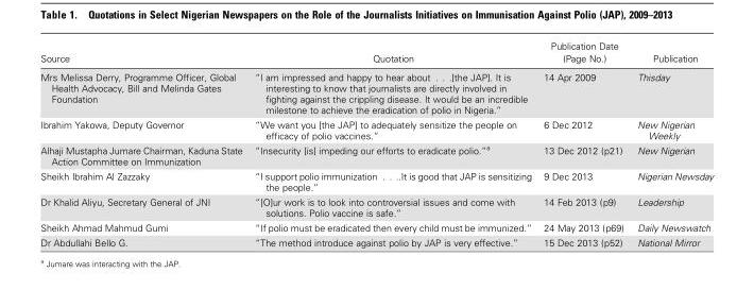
<table><thead><tr><td>Source</td><td>Quotation</td><td>Publication Date (Page No.)</td><td>Publication</td></tr></thead><tbody><tr><td>Mrs Melissa Derry, Programme Officer, Global Health Advocacy, Bill and Melinda Gates Foundation</td><td>“I am impressed and happy to hear about . . .[the JAP]. It is interesting to know that journalists are directly involved in fighting against the crippling disease. It would be an incredible milestone to achieve the eradication of polio in Nigeria.”</td><td>14 Apr 2009</td><td>Thisday</td></tr><tr><td>Ibrahim Yakowa, Deputy Governor</td><td>“We want you [the JAP] to adequately sensitize the people on efficacy of polio vaccines.”</td><td>6 Dec 2012</td><td>New Nigerian Weekly</td></tr><tr><td>Alhaji Mustapha Jumare Chairman, Kaduna State Action Committee on Immunization</td><td>“Insecurity [is] impeding our efforts to eradicate polio.”<sup>a</sup></td><td>13 Dec 2012 (p21)</td><td>New Nigerian</td></tr><tr><td>Sheikh Ibrahim Al Zazzaky</td><td>“I support polio immunization . . ..It is good that JAP is sensitizing the people.”</td><td>9 Dec 2013</td><td>Nigerian Newsday</td></tr><tr><td>Dr Khalid Aliyu, Secretary General of JNI</td><td>“[O]ur work is to look into controversial issues and come with solutions. Polio vaccine is safe.”</td><td>14 Feb 2013 (p9)</td><td>Leadership</td></tr><tr><td>Sheikh Ahmad Mahmud Gumi</td><td>“If polio must be eradicated then every child must be immunized.”</td><td>24 May 2013 (p69)</td><td>Daily Newswatch</td></tr><tr><td>Dr Abdullahi Bello G.</td><td>“The method introduce against polio by JAP is very effective.”</td><td>15 Dec 2013 (p52)</td><td>National Mirror</td></tr></tbody></table>